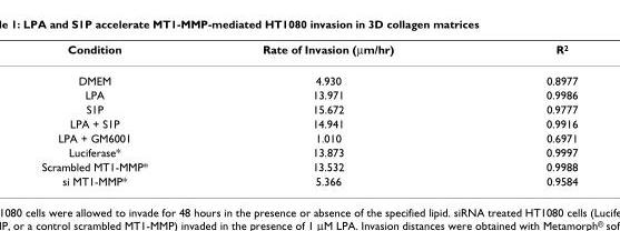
<table><thead><tr><td>Condition</td><td>Rate of Invasion (μm/hr)</td><td>R<sup>2</sup></td></tr></thead><tbody><tr><td>DMEM</td><td>4.930</td><td>0.8977</td></tr><tr><td>LPA</td><td>13.971</td><td>0.9986</td></tr><tr><td>S1P</td><td>15.672</td><td>0.9777</td></tr><tr><td>LPA + S1P</td><td>14.941</td><td>0.9916</td></tr><tr><td>LPA + GM6001</td><td>1.010</td><td>0.6971</td></tr><tr><td>Luciferase*</td><td>13.873</td><td>0.9997</td></tr><tr><td>Scrambled MT1-MMP*</td><td>13.532</td><td>0.9988</td></tr><tr><td>si MT1-MMP*</td><td>5.366</td><td>0.9584</td></tr></tbody></table>